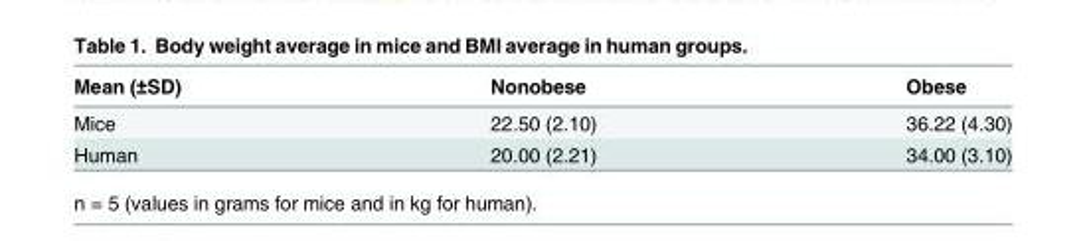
<table><thead><tr><td>Mean (±SD)</td><td>Nonobese</td><td>Obese</td></tr></thead><tbody><tr><td>Mice</td><td>22.50 (2.10)</td><td>36.22 (4.30)</td></tr><tr><td>Human</td><td>20.00 (2.21)</td><td>34.00 (3.10)</td></tr></tbody></table>